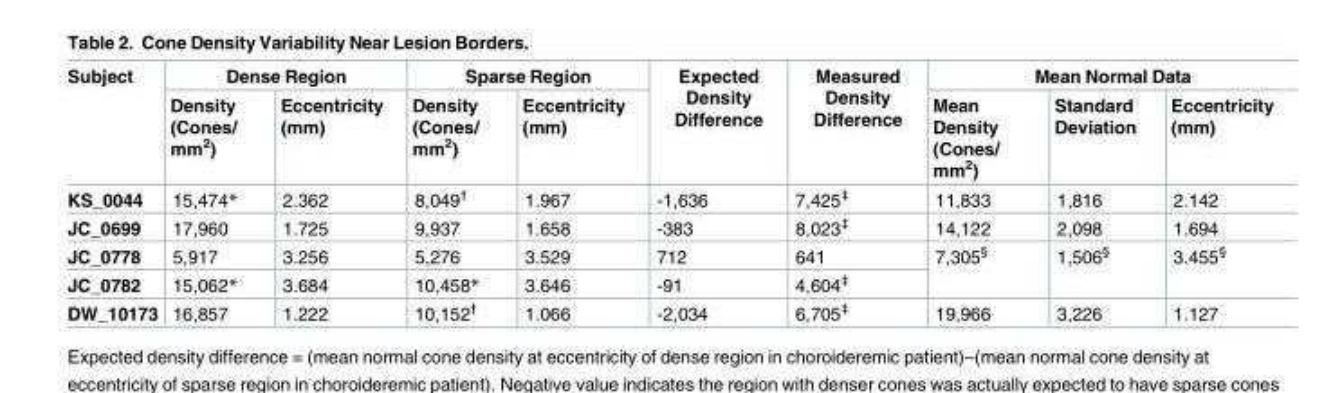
<table><thead><tr><td rowspan="2">Subject</td><td colspan="2">Dense Region</td><td colspan="2">Sparse Region</td><td rowspan="2">Expected Density Difference</td><td rowspan="2">Measured Density Difference</td><td colspan="3">Mean Normal Data</td></tr><tr><td>Density (Cones/ mm<sup>2</sup>)</td><td>Eccentricity (mm)</td><td>Density (Cones/ mm<sup>2</sup>)</td><td>Eccentricity (mm)</td><td>Mean Density (Cones/ mm<sup>2</sup>)</td><td>Standard Deviation</td><td>Eccentricity (mm)</td></tr></thead><tbody><tr><td>KS_0044</td><td>15,474*</td><td>2.362</td><td>8,049<sup>†</sup></td><td>1.967</td><td>-1,636</td><td>7,425<sup>‡</sup></td><td>11,833</td><td>1,816</td><td>2.142</td></tr><tr><td>JC_0699</td><td>17,960</td><td>1.725</td><td>9,937</td><td>1.658</td><td>-383</td><td>8,023<sup>‡</sup></td><td>14,122</td><td>2,098</td><td>1.694</td></tr><tr><td>JC_0778</td><td>5,917</td><td>3.256</td><td>5,276</td><td>3.529</td><td>712</td><td>641</td><td rowspan="2">7,305<sup>§</sup></td><td rowspan="2">1,506<sup>§</sup></td><td rowspan="2">3.455<sup>§</sup></td></tr><tr><td>JC_0782</td><td>15,062*</td><td>3.684</td><td>10,458*</td><td>3.646</td><td>-91</td><td>4,604<sup>‡</sup></td></tr><tr><td>DW_10173</td><td>16,857</td><td>1.222</td><td>10,152<sup>†</sup></td><td>1.066</td><td>-2,034</td><td>6,705<sup>‡</sup></td><td>19,966</td><td>3,226</td><td>1.127</td></tr></tbody></table>